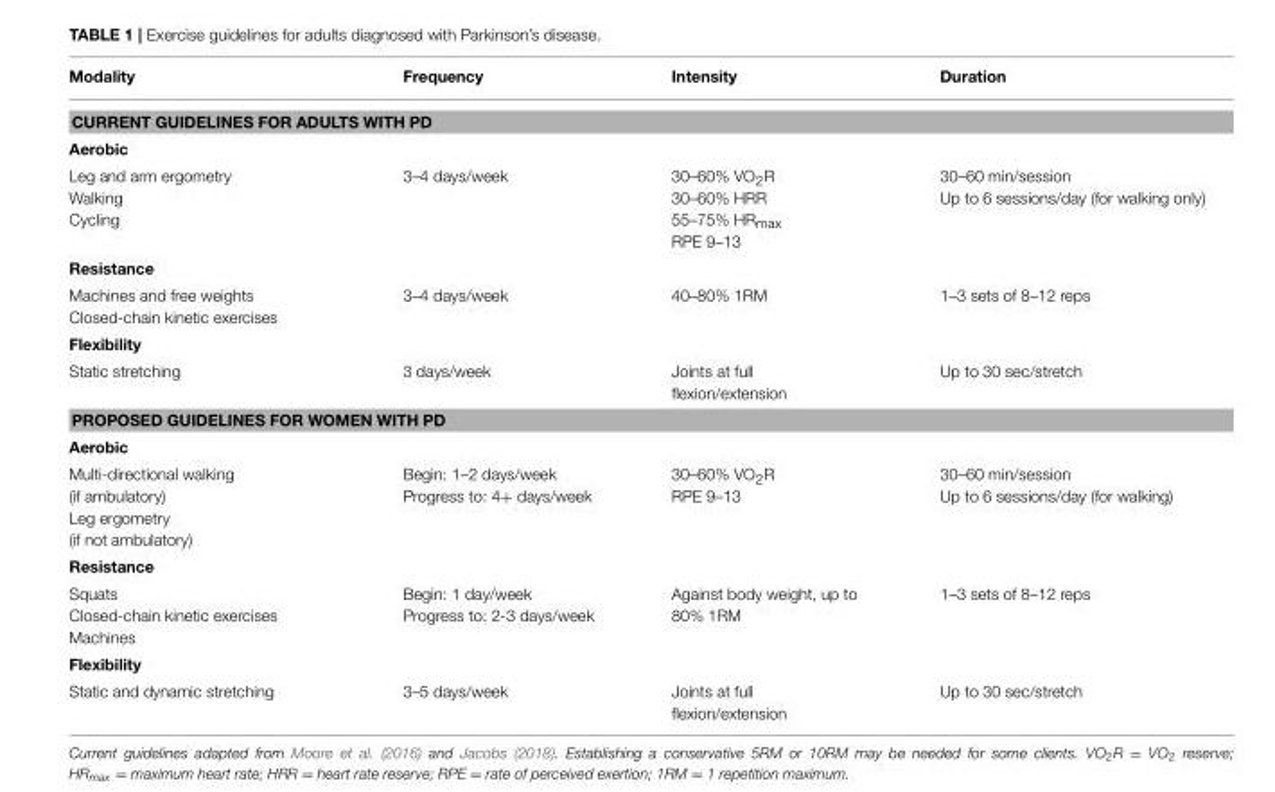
<table><thead><tr><td>Modality</td><td>Frequency</td><td>Intensity</td><td>Duration</td></tr></thead><tbody><tr><td colspan="4">CURRENT GUIDELINES FOR ADULTS WITH PD</td></tr><tr><td colspan="4">Aerobic</td></tr><tr><td>Leg and arm ergometry Walking Cycling</td><td>3–4 days/week</td><td>30–60% VO<sub>2</sub>R 30–60% HRR 55–75% HR<sub>max</sub> RPE 9–13</td><td>30–60 min/session Up to 6 sessions/day (for walking only)</td></tr><tr><td colspan="4">Resistance</td></tr><tr><td>Machines and free weights Closed-chain kinetic exercises</td><td>3–4 days/week</td><td>40–80% 1RM</td><td>1–3 sets of 8–12 reps</td></tr><tr><td colspan="4">Flexibility</td></tr><tr><td>Static stretching</td><td>3 days/week</td><td>Joints at full flexion/extension</td><td>Up to 30 sec/stretch</td></tr><tr><td colspan="4">PROPOSED GUIDELINES FOR WOMEN WITH PD</td></tr><tr><td colspan="4">Aerobic</td></tr><tr><td>Multi-directional walking (if ambulatory) Leg ergometry (if not ambulatory)</td><td>Begin: 1–2 days/week Progress to: 4+ days/week</td><td>30–60% VO<sub>2</sub>R RPE 9–13</td><td>30–60 min/session Up to 6 sessions/day (for walking)</td></tr><tr><td colspan="4">Resistance</td></tr><tr><td>Squats Closed-chain kinetic exercises Machines</td><td>Begin: 1 day/week Progress to: 2-3 days/week</td><td>Against body weight, up to 80% 1RM</td><td>1–3 sets of 8–12 reps</td></tr><tr><td colspan="4">Flexibility</td></tr><tr><td>Static and dynamic stretching</td><td>3–5 days/week</td><td>Joints at full flexion/extension</td><td>Up to 30 sec/stretch</td></tr></tbody></table>